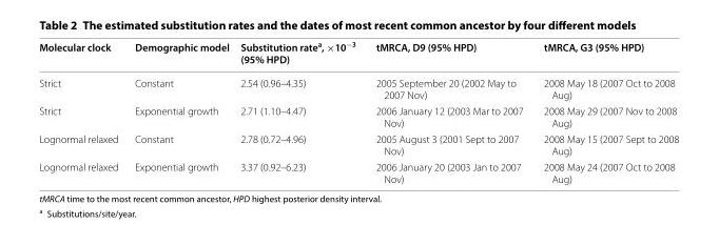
<table><thead><tr><td>Molecular clock</td><td>Demographic model</td><td>Substitution rate<sup>a</sup>, ×10<sup>−3</sup> (95% HPD)</td><td>tMRCA, D9 (95% HPD)</td><td>tMRCA, G3 (95% HPD)</td></tr></thead><tbody><tr><td>Strict</td><td>Constant</td><td>2.54 (0.96–4.35)</td><td>2005 September 20 (2002 May to 2007 Nov)</td><td>2008 May 18 (2007 Oct to 2008 Aug)</td></tr><tr><td>Strict</td><td>Exponential growth</td><td>2.71 (1.10–4.47)</td><td>2006 January 12 (2003 Mar to 2007 Nov)</td><td>2008 May 29 (2007 Nov to 2008 Aug)</td></tr><tr><td>Lognormal relaxed</td><td>Constant</td><td>2.78 (0.72–4.96)</td><td>2005 August 3 (2001 Sept to 2007 Nov)</td><td>2008 May 15 (2007 Sept to 2008 Aug)</td></tr><tr><td>Lognormal relaxed</td><td>Exponential growth</td><td>3.37 (0.92–6.23)</td><td>2006 January 20 (2003 Jan to 2007 Nov)</td><td>2008 May 24 (2007 Oct to 2008 Aug)</td></tr></tbody></table>